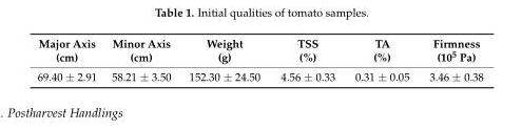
<table><thead><tr><td>Major Axis (cm)</td><td>Minor Axis (cm)</td><td>Weight (g)</td><td>TSS (%)</td><td>TA (%)</td><td>Firmness (10<sup>5</sup> Pa)</td></tr></thead><tbody><tr><td>69.40 ± 2.91</td><td>58.21 ± 3.50</td><td>152.30 ± 24.50</td><td>4.56 ± 0.33</td><td>0.31 ± 0.05</td><td>3.46 ± 0.38</td></tr></tbody></table>